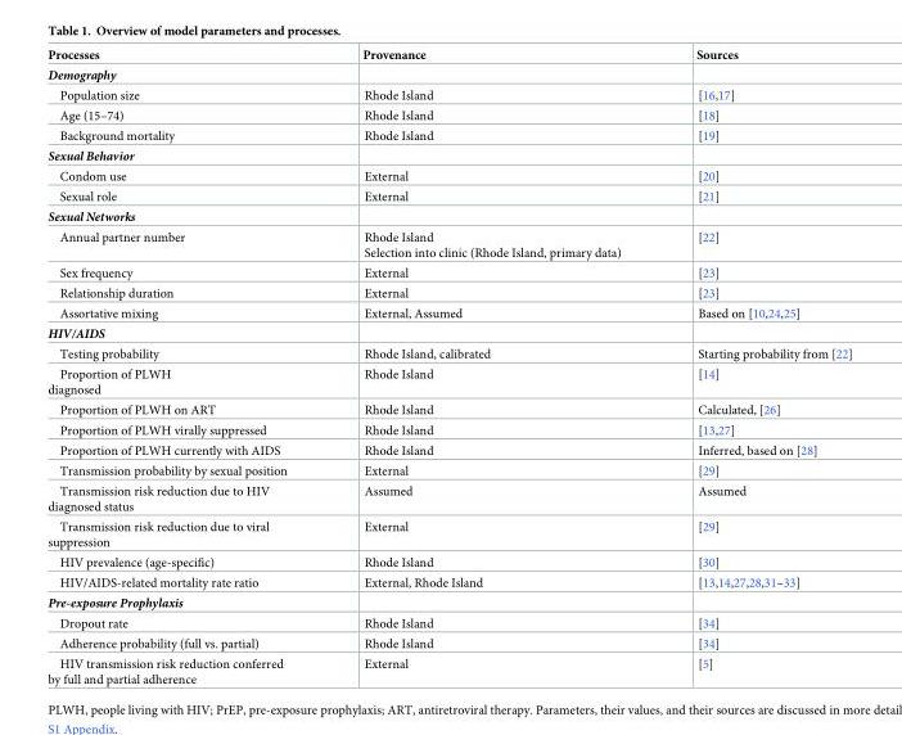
<table><thead><tr><td>Processes</td><td>Provenance</td><td>Sources</td></tr></thead><tbody><tr><td colspan="3">Demography</td></tr><tr><td>Population size</td><td>Rhode Island</td><td>[16,17]</td></tr><tr><td>Age (15–74)</td><td>Rhode Island</td><td>[18]</td></tr><tr><td>Background mortality</td><td>Rhode Island</td><td>[19]</td></tr><tr><td colspan="3">Sexual Behavior</td></tr><tr><td>Condom use</td><td>External</td><td>[20]</td></tr><tr><td>Sexual role</td><td>External</td><td>[21]</td></tr><tr><td colspan="3">Sexual Networks</td></tr><tr><td>Annual partner number</td><td>Rhode Island Selection into clinic (Rhode Island, primary data)</td><td>[22]</td></tr><tr><td>Sex frequency</td><td>External</td><td>[23]</td></tr><tr><td>Relationship duration</td><td>External</td><td>[23]</td></tr><tr><td>Assortative mixing</td><td>External, Assumed</td><td>Based on [10,24,25]</td></tr><tr><td colspan="3">HIV/AIDS</td></tr><tr><td>Testing probability</td><td>Rhode Island, calibrated</td><td>Starting probability from [22]</td></tr><tr><td>Proportion of PLWH diagnosed</td><td>Rhode Island</td><td>[14]</td></tr><tr><td>Proportion of PLWH on ART</td><td>Rhode Island</td><td>Calculated, [26]</td></tr><tr><td>Proportion of PLWH virally suppressed</td><td>Rhode Island</td><td>[13,27]</td></tr><tr><td>Proportion of PLWH currently with AIDS</td><td>Rhode Island</td><td>Inferred, based on [28]</td></tr><tr><td>Transmission probability by sexual position</td><td>External</td><td>[29]</td></tr><tr><td>Transmission risk reduction due to HIV diagnosed status</td><td>Assumed</td><td>Assumed</td></tr><tr><td>Transmission risk reduction due to viral suppression</td><td>External</td><td>[29]</td></tr><tr><td>HIV prevalence (age-specific)</td><td>Rhode Island</td><td>[30]</td></tr><tr><td>HIV/AIDS-related mortality rate ratio</td><td>External, Rhode Island</td><td>[13,14,27,28,31–33]</td></tr><tr><td colspan="3">Pre-exposure Prophylaxis</td></tr><tr><td>Dropout rate</td><td>Rhode Island</td><td>[34]</td></tr><tr><td>Adherence probability (full vs. partial)</td><td>Rhode Island</td><td>[34]</td></tr><tr><td>HIV transmission risk reduction conferred by full and partial adherence</td><td>External</td><td>[5]</td></tr></tbody></table>